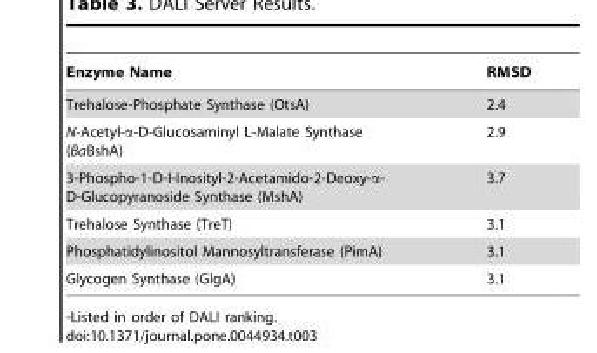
<table><thead><tr><td>Enzyme Name</td><td>RMSD</td></tr></thead><tbody><tr><td>Trehalose-Phosphate Synthase (OtsA)</td><td>2.4</td></tr><tr><td>N-Acetyl-α-D-Glucosaminyl L-Malate Synthase (BaBshA)</td><td>2.9</td></tr><tr><td>3-Phospho-1-D-I-Inosityl-2-Acetamido-2-Deoxy-α- D-Glucopyranoside Synthase (MshA)</td><td>3.7</td></tr><tr><td>Trehalose Synthase (TreT)</td><td>3.1</td></tr><tr><td>Phosphatidylinositol Mannosyltransferase (PimA)</td><td>3.1</td></tr><tr><td>Glycogen Synthase (GlgA)</td><td>3.1</td></tr></tbody></table>